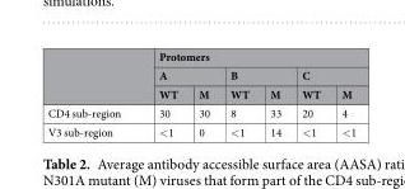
<table><thead><tr><td rowspan="3"></td><td colspan="6">Protomers</td></tr><tr><td colspan="2">A</td><td colspan="2">B</td><td colspan="2">C</td></tr><tr><td>WT</td><td>M</td><td>WT</td><td>M</td><td>WT</td><td>M</td></tr></thead><tbody><tr><td>CD4 sub-region</td><td>30</td><td>30</td><td>8</td><td>33</td><td>20</td><td>4</td></tr><tr><td>V3 sub-region</td><td>&lt;1</td><td>0</td><td>&lt;1</td><td>14</td><td>&lt;1</td><td>&lt;1</td></tr></tbody></table>